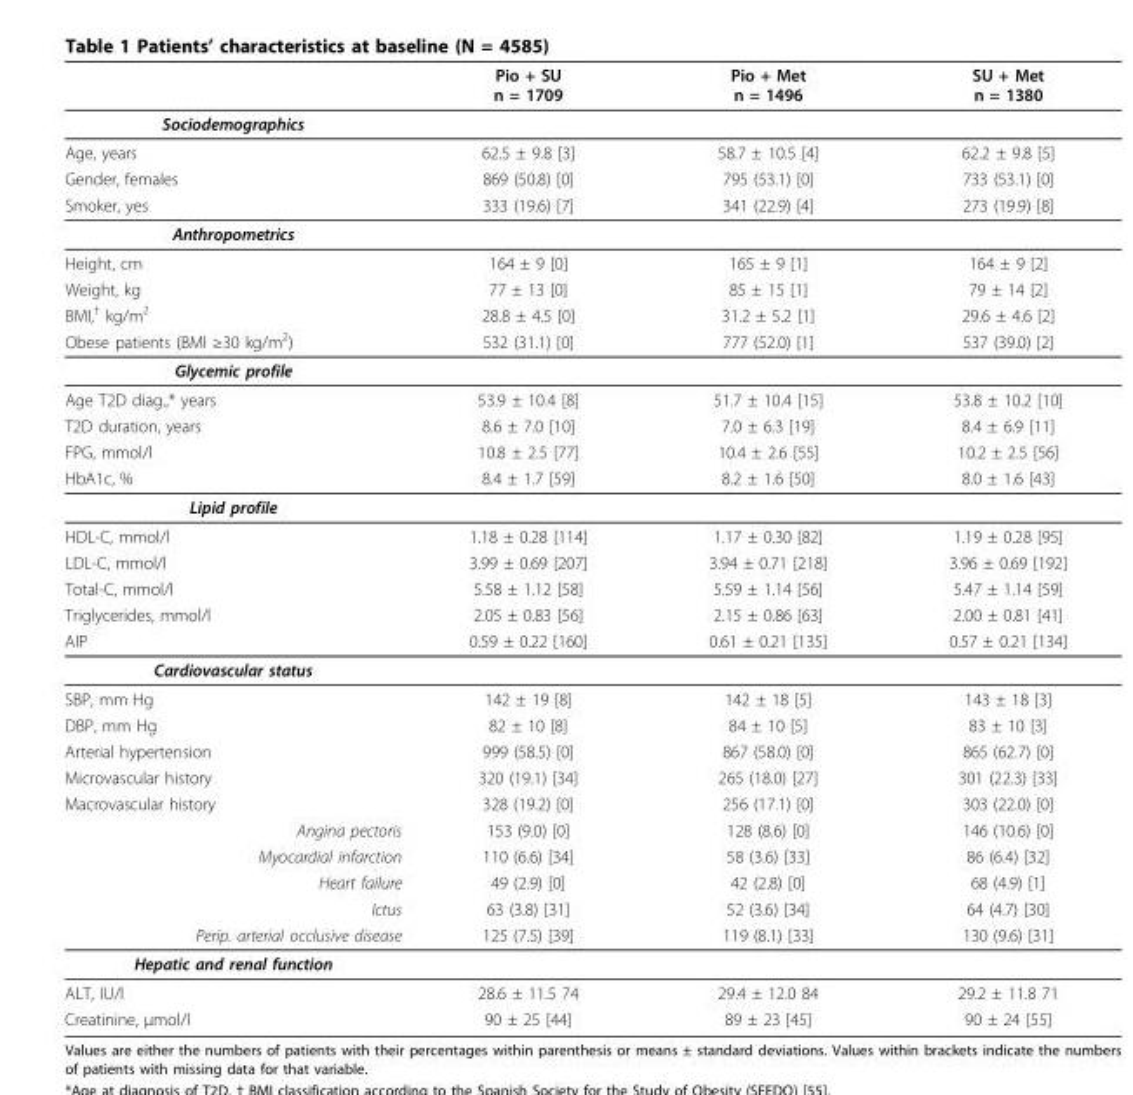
<table><thead><tr><td></td><td>Pio + SU n = 1709</td><td>Pio + Met n = 1496</td><td>SU + Met n = 1380</td></tr></thead><tbody><tr><td colspan="4">Sociodemographics</td></tr><tr><td>Age, years</td><td>62.5 ± 9.8 [3]</td><td>58.7 ± 10.5 [4]</td><td>62.2 ± 9.8 [5]</td></tr><tr><td>Gender, females</td><td>869 (50.8) [0]</td><td>795 (53.1) [0]</td><td>733 (53.1) [0]</td></tr><tr><td>Smoker, yes</td><td>333 (19.6) [7]</td><td>341 (22.9) [4]</td><td>273 (19.9) [8]</td></tr><tr><td colspan="4">Anthropometrics</td></tr><tr><td>Height, cm</td><td>164 ± 9 [0]</td><td>165 ± 9 [1]</td><td>164 ± 9 [2]</td></tr><tr><td>Weight, kg</td><td>77 ± 13 [0]</td><td>85 ± 15 [1]</td><td>79 ± 14 [2]</td></tr><tr><td>BMI,<sup>†</sup> kg/m<sup>2</sup></td><td>28.8 ± 4.5 [0]</td><td>31.2 ± 5.2 [1]</td><td>29.6 ± 4.6 [2]</td></tr><tr><td>Obese patients (BMI ≥30 kg/m<sup>2</sup>)</td><td>532 (31.1) [0]</td><td>777 (52.0) [1]</td><td>537 (39.0) [2]</td></tr><tr><td colspan="4">Glycemic profile</td></tr><tr><td>Age T2D diag.,* years</td><td>53.9 ± 10.4 [8]</td><td>51.7 ± 10.4 [15]</td><td>53.8 ± 10.2 [10]</td></tr><tr><td>T2D duration, years</td><td>8.6 ± 7.0 [10]</td><td>7.0 ± 6.3 [19]</td><td>8.4 ± 6.9 [11]</td></tr><tr><td>FPG, mmol/l</td><td>10.8 ± 2.5 [77]</td><td>10.4 ± 2.6 [55]</td><td>10.2 ± 2.5 [56]</td></tr><tr><td>HbA1c, %</td><td>8.4 ± 1.7 [59]</td><td>8.2 ± 1.6 [50]</td><td>8.0 ± 1.6 [43]</td></tr><tr><td colspan="4">Lipid profile</td></tr><tr><td>HDL-C, mmol/l</td><td>1.18 ± 0.28 [114]</td><td>1.17 ± 0.30 [82]</td><td>1.19 ± 0.28 [95]</td></tr><tr><td>LDL-C, mmol/l</td><td>3.99 ± 0.69 [207]</td><td>3.94 ± 0.71 [218]</td><td>3.96 ± 0.69 [192]</td></tr><tr><td>Total-C, mmol/l</td><td>5.58 ± 1.12 [58]</td><td>5.59 ± 1.14 [56]</td><td>5.47 ± 1.14 [59]</td></tr><tr><td>Triglycerides, mmol/l</td><td>2.05 ± 0.83 [56]</td><td>2.15 ± 0.86 [63]</td><td>2.00 ± 0.81 [41]</td></tr><tr><td>AIP</td><td>0.59 ± 0.22 [160]</td><td>0.61 ± 0.21 [135]</td><td>0.57 ± 0.21 [134]</td></tr><tr><td colspan="4">Cardiovascular status</td></tr><tr><td>SBP, mm Hg</td><td>142 ± 19 [8]</td><td>142 ± 18 [5]</td><td>143 ± 18 [3]</td></tr><tr><td>DBP, mm Hg</td><td>82 ± 10 [8]</td><td>84 ± 10 [5]</td><td>83 ± 10 [3]</td></tr><tr><td>Arterial hypertension</td><td>999 (58.5) [0]</td><td>867 (58.0) [0]</td><td>865 (62.7) [0]</td></tr><tr><td>Microvascular history</td><td>320 (19.1) [34]</td><td>265 (18.0) [27]</td><td>301 (22.3) [33]</td></tr><tr><td>Macrovascular history</td><td>328 (19.2) [0]</td><td>256 (17.1) [0]</td><td>303 (22.0) [0]</td></tr><tr><td>Angina pectoris</td><td>153 (9.0) [0]</td><td>128 (8.6) [0]</td><td>146 (10.6) [0]</td></tr><tr><td>Myocardial infarction</td><td>110 (6.6) [34]</td><td>58 (3.6) [33]</td><td>86 (6.4) [32]</td></tr><tr><td>Heart failure</td><td>49 (2.9) [0]</td><td>42 (2.8) [0]</td><td>68 (4.9) [1]</td></tr><tr><td>Ictus</td><td>63 (3.8) [31]</td><td>52 (3.6) [34]</td><td>64 (4.7) [30]</td></tr><tr><td>Perip. arterial occlusive disease</td><td>125 (7.5) [39]</td><td>119 (8.1) [33]</td><td>130 (9.6) [31]</td></tr><tr><td colspan="4">Hepatic and renal function</td></tr><tr><td>ALT, IU/l</td><td>28.6 ± 11.5 74</td><td>29.4 ± 12.0 84</td><td>29.2 ± 11.8 71</td></tr><tr><td>Creatinine, μmol/l</td><td>90 ± 25 [44]</td><td>89 ± 23 [45]</td><td>90 ± 24 [55]</td></tr></tbody></table>